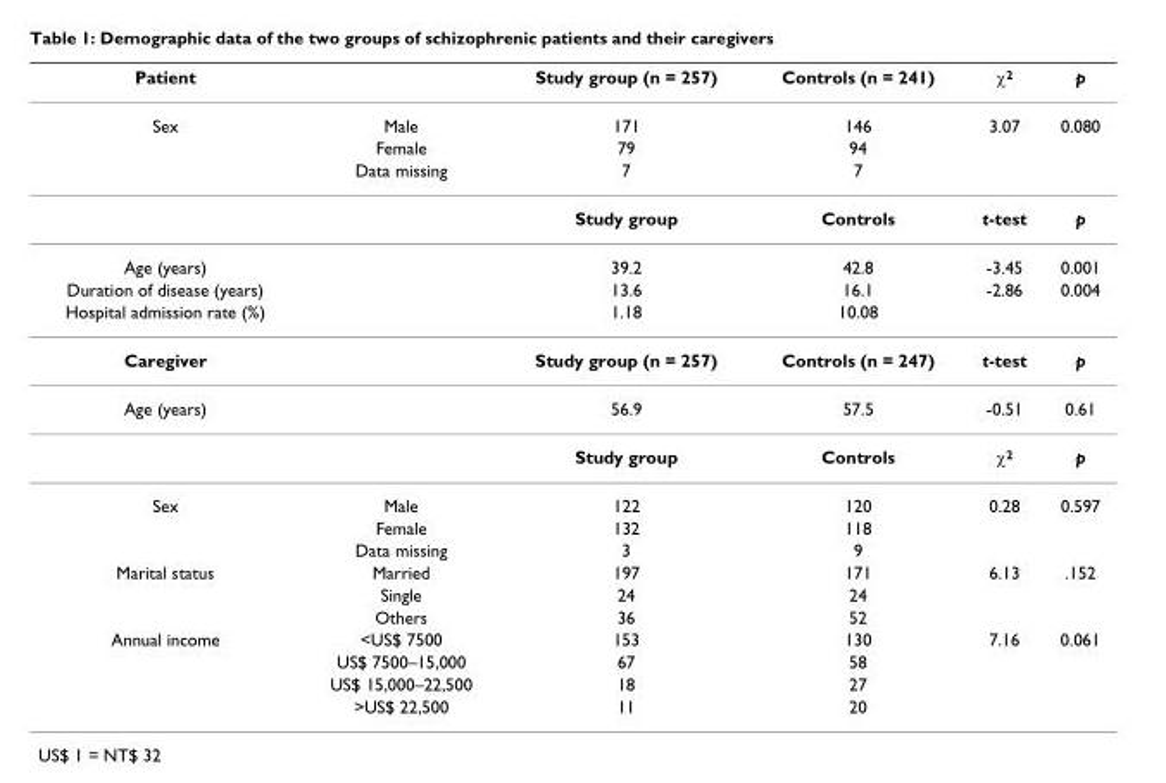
<table><thead><tr><td>Patient</td><td></td><td>Study group (n = 257)</td><td>Controls (n = 241)</td><td>χ<sup>2</sup></td><td>p</td></tr></thead><tbody><tr><td rowspan="4">Sex</td><td>Male</td><td>171</td><td>146</td><td>3.07</td><td>0.080</td></tr><tr><td>Female</td><td>79</td><td>94</td><td></td><td></td></tr><tr><td>Data missing</td><td>7</td><td>7</td><td></td><td></td></tr><tr><td></td><td>Study group</td><td>Controls</td><td>t-test</td><td>p</td></tr><tr><td>Age (years)</td><td></td><td>39.2</td><td>42.8</td><td>-3.45</td><td>0.001</td></tr><tr><td>Duration of disease (years)</td><td></td><td>13.6</td><td>16.1</td><td>-2.86</td><td>0.004</td></tr><tr><td>Hospital admission rate (%)</td><td></td><td>1.18</td><td>10.08</td><td></td><td></td></tr><tr><td>Caregiver</td><td></td><td>Study group (n = 257)</td><td>Controls (n = 247)</td><td>t-test</td><td>p</td></tr><tr><td rowspan="2">Age (years)</td><td></td><td>56.9</td><td>57.5</td><td>-0.51</td><td>0.61</td></tr><tr><td></td><td>Study group</td><td>Controls</td><td>χ<sup>2</sup></td><td>p</td></tr><tr><td rowspan="3">Sex</td><td>Male</td><td>122</td><td>120</td><td>0.28</td><td>0.597</td></tr><tr><td>Female</td><td>132</td><td>118</td><td></td><td></td></tr><tr><td>Data missing</td><td>3</td><td>9</td><td></td><td></td></tr><tr><td rowspan="3">Marital status</td><td>Married</td><td>197</td><td>171</td><td>6.13</td><td>.152</td></tr><tr><td>Single</td><td>24</td><td>24</td><td></td><td></td></tr><tr><td>Others</td><td>36</td><td>52</td><td></td><td></td></tr><tr><td rowspan="4">Annual income</td><td>&lt;US$ 7500</td><td>153</td><td>130</td><td>7.16</td><td>0.061</td></tr><tr><td>US$ 7500–15,000</td><td>67</td><td>58</td><td></td><td></td></tr><tr><td>US$ 15,000–22,500</td><td>18</td><td>27</td><td></td><td></td></tr><tr><td>&gt;US$ 22,500</td><td>11</td><td>20</td><td></td><td></td></tr></tbody></table>